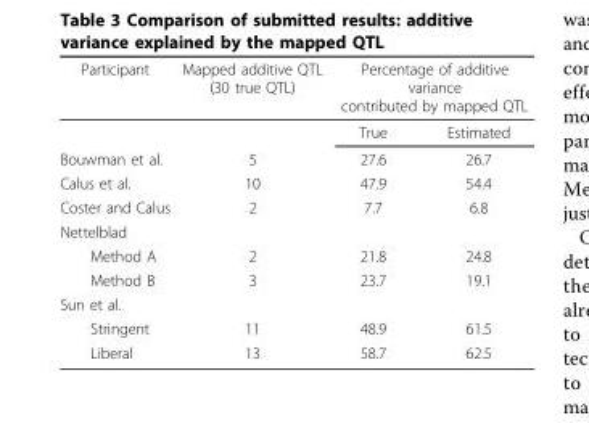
<table><thead><tr><td rowspan="2">Participant</td><td rowspan="2">Mapped additive QTL (30 true QTL)</td><td colspan="2">Percentage of additive variance contributed by mapped QTL</td></tr><tr><td>True</td><td>Estimated</td></tr></thead><tbody><tr><td>Bouwman et al.</td><td>5</td><td>27.6</td><td>26.7</td></tr><tr><td>Calus et al.</td><td>10</td><td>47.9</td><td>54.4</td></tr><tr><td>Coster and Calus</td><td>2</td><td>7.7</td><td>6.8</td></tr><tr><td colspan="4">Nettelblad</td></tr><tr><td>Method A</td><td>2</td><td>21.8</td><td>24.8</td></tr><tr><td>Method B</td><td>3</td><td>23.7</td><td>19.1</td></tr><tr><td colspan="4">Sun et al.</td></tr><tr><td>Stringent</td><td>11</td><td>48.9</td><td>61.5</td></tr><tr><td>Liberal</td><td>13</td><td>58.7</td><td>62.5</td></tr></tbody></table>